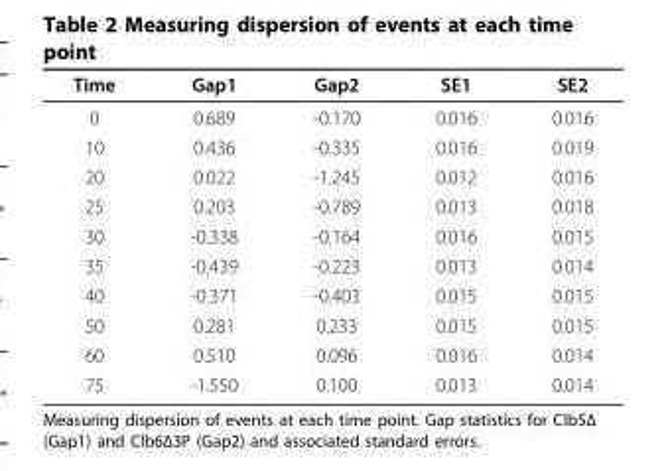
<table><thead><tr><td>Time</td><td>Gap1</td><td>Gap2</td><td>SE1</td><td>SE2</td></tr></thead><tbody><tr><td>0</td><td>0.689</td><td>-0.170</td><td>0.016</td><td>0.016</td></tr><tr><td>10</td><td>0.436</td><td>-0.335</td><td>0.016</td><td>0.019</td></tr><tr><td>20</td><td>0.022</td><td>-1.245</td><td>0.012</td><td>0.016</td></tr><tr><td>25</td><td>0.203</td><td>-0.789</td><td>0.013</td><td>0.018</td></tr><tr><td>30</td><td>-0.338</td><td>-0.164</td><td>0.016</td><td>0.015</td></tr><tr><td>35</td><td>-0.439</td><td>-0.223</td><td>0.013</td><td>0.014</td></tr><tr><td>40</td><td>-0.371</td><td>-0.403</td><td>0.015</td><td>0.015</td></tr><tr><td>50</td><td>0.281</td><td>0.233</td><td>0.015</td><td>0.015</td></tr><tr><td>60</td><td>0.510</td><td>0.096</td><td>0.016</td><td>0.014</td></tr><tr><td>75</td><td>-1.550</td><td>0.100</td><td>0.013</td><td>0.014</td></tr></tbody></table>